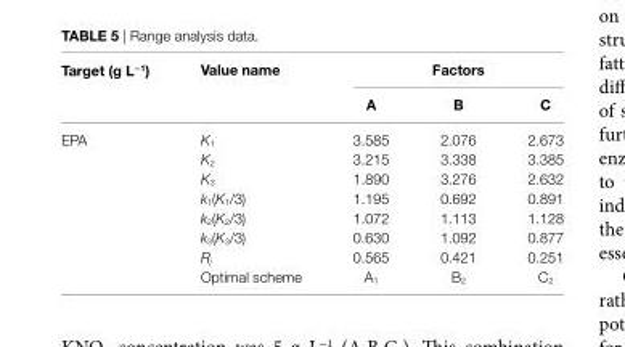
<table><thead><tr><td rowspan="2">Target (g l<sup>−1</sup>)</td><td rowspan="2">Value name</td><td colspan="3">Factors</td></tr><tr><td>a</td><td>B</td><td>c</td></tr></thead><tbody><tr><td rowspan="8">EPA</td><td>K<sub>1</sub></td><td>3.585</td><td>2.076</td><td>2.673</td></tr><tr><td>K<sub>2</sub></td><td>3.215</td><td>3.338</td><td>3.385</td></tr><tr><td>K<sub>3</sub></td><td>1.890</td><td>3.276</td><td>2.632</td></tr><tr><td>k<sub>1</sub>(K<sub>1</sub>/3)</td><td>1.195</td><td>0.692</td><td>0.891</td></tr><tr><td>k<sub>2</sub>(K<sub>2</sub>/3)</td><td>1.072</td><td>1.113</td><td>1.128</td></tr><tr><td>k<sub>3</sub>(K<sub>3</sub>/3)</td><td>0.630</td><td>1.092</td><td>0.877</td></tr><tr><td>R<sub>j</sub></td><td>0.565</td><td>0.421</td><td>0.251</td></tr><tr><td>Optimal scheme</td><td>A<sub>1</sub></td><td>B<sub>2</sub></td><td>C<sub>2</sub></td></tr></tbody></table>